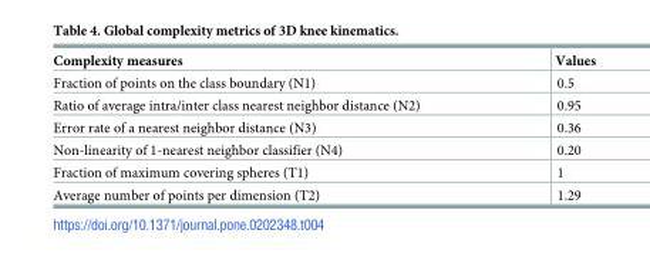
<table><thead><tr><td>Complexity measures</td><td>Values</td></tr></thead><tbody><tr><td>Fraction of points on the class boundary (N1)</td><td>0.5</td></tr><tr><td>Ratio of average intra/inter class nearest neighbor distance (N2)</td><td>0.95</td></tr><tr><td>Error rate of a nearest neighbor distance (N3)</td><td>0.36</td></tr><tr><td>Non-linearity of 1-nearest neighbor classifier (N4)</td><td>0.20</td></tr><tr><td>Fraction of maximum covering spheres (T1)</td><td>1</td></tr><tr><td>Average number of points per dimension (T2)</td><td>1.29</td></tr></tbody></table>